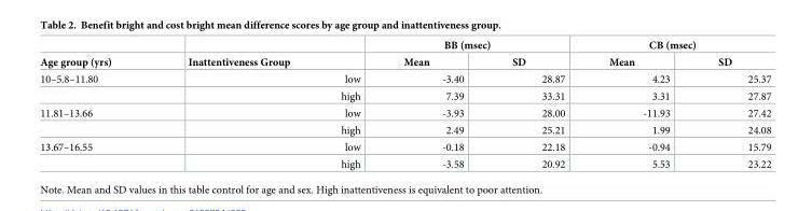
<table><thead><tr><td rowspan="2">Age group (yrs)</td><td rowspan="2">Inattentiveness Group</td><td colspan="2">BB (msec)</td><td colspan="2">CB (msec)</td></tr><tr><td>Mean</td><td>SD</td><td>Mean</td><td>SD</td></tr></thead><tbody><tr><td rowspan="2">10–5.8–11.80</td><td>low</td><td>-3.40</td><td>28.87</td><td>4.23</td><td>25.37</td></tr><tr><td>high</td><td>7.39</td><td>33.31</td><td>3.31</td><td>27.87</td></tr><tr><td rowspan="2">11.81–13.66</td><td>low</td><td>-3.93</td><td>28.00</td><td>-11.93</td><td>27.42</td></tr><tr><td>high</td><td>2.49</td><td>25.21</td><td>1.99</td><td>24.08</td></tr><tr><td rowspan="2">13.67–16.55</td><td>low</td><td>-0.18</td><td>22.18</td><td>-0.94</td><td>15.79</td></tr><tr><td>high</td><td>-3.58</td><td>20.92</td><td>5.53</td><td>23.22</td></tr></tbody></table>